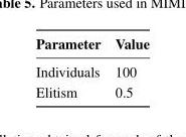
<table><thead><tr><td>Parameter</td><td>Value</td></tr></thead><tbody><tr><td>Individuals</td><td>100</td></tr><tr><td>Elitism</td><td>0.5</td></tr></tbody></table>